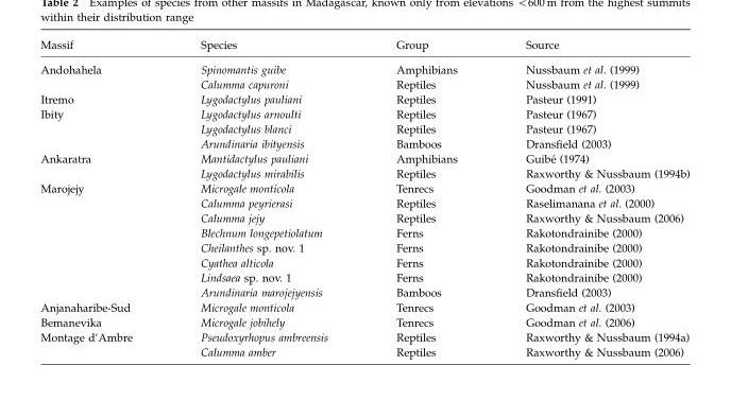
<table><thead><tr><td>Massif</td><td>Species</td><td>Group</td><td>Source</td></tr></thead><tbody><tr><td rowspan="2">Andohahela</td><td>Spinomantis guibe</td><td>Amphibians</td><td>Nussbaum et al. (1999)</td></tr><tr><td>Calumma capuroni</td><td>Reptiles</td><td>Nussbaum et al. (1999)</td></tr><tr><td>Itremo</td><td>Lygodactylus pauliani</td><td>Reptiles</td><td>Pasteur (1991)</td></tr><tr><td rowspan="3">Ibity</td><td>Lygodactylus arnoulti</td><td>Reptiles</td><td>Pasteur (1967)</td></tr><tr><td>Lygodactylus blanci</td><td>Reptiles</td><td>Pasteur (1967)</td></tr><tr><td>Arundinaria ibityensis</td><td>Bamboos</td><td>Dransfield (2003)</td></tr><tr><td rowspan="2">Ankaratra</td><td>Mantidactylus pauliani</td><td>Amphibians</td><td>Guibe´ (1974)</td></tr><tr><td>Lygodactylus mirabilis</td><td>Reptiles</td><td>Raxworthy &amp; Nussbaum (1994b)</td></tr><tr><td rowspan="8">Marojejy</td><td>Microgale monticola</td><td>Tenrecs</td><td>Goodman et al. (2003)</td></tr><tr><td>Calumma peyrierasi</td><td>Reptiles</td><td>Raselimanana et al. (2000)</td></tr><tr><td>Calumma jejy</td><td>Reptiles</td><td>Raxworthy &amp; Nussbaum (2006)</td></tr><tr><td>Blechnum longepetiolatum</td><td>Ferns</td><td>Rakotondrainibe (2000)</td></tr><tr><td>Cheilanthes sp. nov. 1</td><td>Ferns</td><td>Rakotondrainibe (2000)</td></tr><tr><td>Cyathea alticola</td><td>Ferns</td><td>Rakotondrainibe (2000)</td></tr><tr><td>Lindsaea sp. nov. 1</td><td>Ferns</td><td>Rakotondrainibe (2000)</td></tr><tr><td>Arundinaria marojejyensis</td><td>Bamboos</td><td>Dransfield (2003)</td></tr><tr><td>Anjanaharibe-Sud</td><td>Microgale monticola</td><td>Tenrecs</td><td>Goodman et al. (2003)</td></tr><tr><td>Bemanevika</td><td>Microgale jobihely</td><td>Tenrecs</td><td>Goodman et al. (2006)</td></tr><tr><td rowspan="2">Montage d’Ambre</td><td>Pseudoxyrhopus ambreensis</td><td>Reptiles</td><td>Raxworthy &amp; Nussbaum (1994a)</td></tr><tr><td>Calumma amber</td><td>Reptiles</td><td>Raxworthy &amp; Nussbaum (2006)</td></tr></tbody></table>